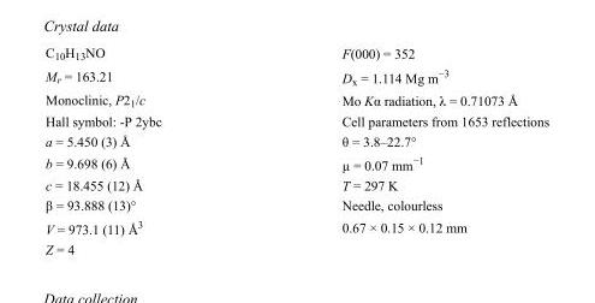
<table><tbody><tr><td>C<sub>10</sub>H<sub>13</sub>NO</td><td>F(000) = 352</td></tr><tr><td>M<sub>r</sub> = 163.21</td><td>D<sub>x</sub> = 1.114 Mg m<sup>−3</sup></td></tr><tr><td>Monoclinic, P2<sub>1</sub>/c</td><td>Mo Kα radiation, λ = 0.71073 Å</td></tr><tr><td>Hall symbol: -P 2ybc</td><td>Cell parameters from 1653 reflections</td></tr><tr><td>a = 5.450 (3) Å</td><td>θ = 3.8–22.7°</td></tr><tr><td>b = 9.698 (6) Å</td><td>µ = 0.07 mm<sup>−1</sup></td></tr><tr><td>c = 18.455 (12) Å</td><td>T = 297 K</td></tr><tr><td>β = 93.888 (13)°</td><td>Needle, colourless</td></tr><tr><td>V = 973.1 (11) Å<sup>3</sup></td><td>0.67 × 0.15 × 0.12 mm</td></tr><tr><td>Z = 4</td><td></td></tr></tbody></table>